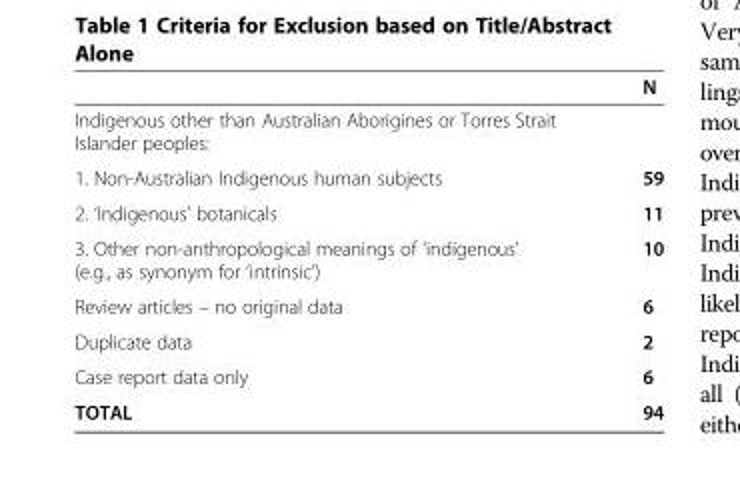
<table><thead><tr><td></td><td>N</td></tr></thead><tbody><tr><td colspan="2">Indigenous other than Australian Aborigines or Torres Strait Islander peoples:</td></tr><tr><td>1. Non-Australian Indigenous human subjects</td><td>59</td></tr><tr><td>2. ‘Indigenous’ botanicals</td><td>11</td></tr><tr><td>3. Other non-anthropological meanings of ‘indigenous’ (e.g., as synonym for ‘intrinsic’)</td><td>10</td></tr><tr><td>Review articles – no original data</td><td>6</td></tr><tr><td>Duplicate data</td><td>2</td></tr><tr><td>Case report data only</td><td>6</td></tr><tr><td>TOTAL</td><td>94</td></tr></tbody></table>